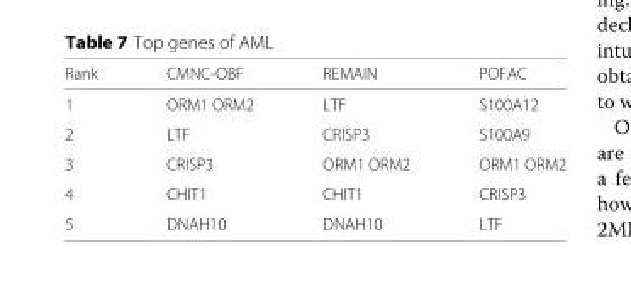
<table><thead><tr><td>Rank</td><td>CMNC-OBF</td><td>REMAIN</td><td>POFAC</td></tr></thead><tbody><tr><td>1</td><td>ORM1 ORM2</td><td>LTF</td><td>S100A12</td></tr><tr><td>2</td><td>LTF</td><td>CRISP3</td><td>S100A9</td></tr><tr><td>3</td><td>CRISP3</td><td>ORM1 ORM2</td><td>ORM1 ORM2</td></tr><tr><td>4</td><td>CHIT1</td><td>CHIT1</td><td>CRISP3</td></tr><tr><td>5</td><td>DNAH10</td><td>DNAH10</td><td>LTF</td></tr></tbody></table>